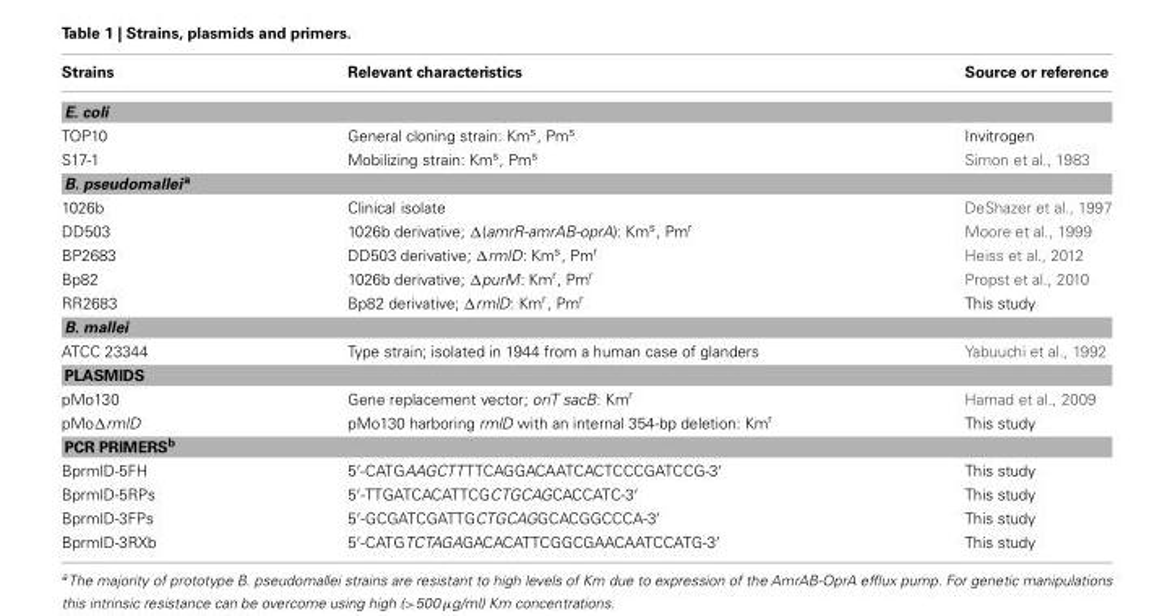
<table><thead><tr><td>Strains</td><td>Relevant characteristics</td><td>Source or reference</td></tr></thead><tbody><tr><td colspan="3">E. coli</td></tr><tr><td>TOP10</td><td>General cloning strain: Km<sup>s</sup>, Pm<sup>s</sup></td><td>Invitrogen</td></tr><tr><td>S17-1</td><td>Mobilizing strain: Km<sup>s</sup>, Pm<sup>s</sup></td><td>Simon et al., 1983</td></tr><tr><td colspan="3">B. pseudomallei<sup>a</sup></td></tr><tr><td>1026b</td><td>Clinical isolate</td><td>DeShazer et al., 1997</td></tr><tr><td>DD503</td><td>1026b derivative; Δ(amrR-amrAB-oprA): Km<sup>s</sup>, Pm<sup>r</sup></td><td>Moore et al., 1999</td></tr><tr><td>BP2683</td><td>DD503 derivative; ΔrmlD: Km<sup>s</sup>, Pm<sup>r</sup></td><td>Heiss et al., 2012</td></tr><tr><td>Bp82</td><td>1026b derivative; ΔpurM: Km<sup>r</sup>, Pm<sup>r</sup></td><td>Propst et al., 2010</td></tr><tr><td>RR2683</td><td>Bp82 derivative; ΔrmlD: Km<sup>r</sup>, Pm<sup>r</sup></td><td>This study</td></tr><tr><td colspan="3">B. mallei</td></tr><tr><td>ATCC 23344</td><td>Type strain; isolated in 1944 from a human case of glanders</td><td>Yabuuchi et al., 1992</td></tr><tr><td colspan="3">PLASMIDS</td></tr><tr><td>pMo130</td><td>Gene replacement vector; oriT sacB: Km<sup>r</sup></td><td>Hamad et al., 2009</td></tr><tr><td>pMoΔrmlD</td><td>pMo130 harboring rmlD with an internal 354-bp deletion: Km<sup>r</sup></td><td>This study</td></tr><tr><td colspan="3">PCR PRIMERS<sup>b</sup></td></tr><tr><td>BprmlD-5FH</td><td>5′-CATGAAGCTTTTCAGGACAATCACTCCCGATCCG-3′</td><td>This study</td></tr><tr><td>BprmlD-5RPs</td><td>5′-TTGATCACATTCGCTGCAGCACCATC-3′</td><td>This study</td></tr><tr><td>BprmlD-3FPs</td><td>5′-GCGATCGATTGCTGCAGGCACGGCCCA-3′</td><td>This study</td></tr><tr><td>BprmlD-3RXb</td><td>5′-CATGTCTAGAGACACATTCGGCGAACAATCCATG-3′</td><td>This study</td></tr></tbody></table>